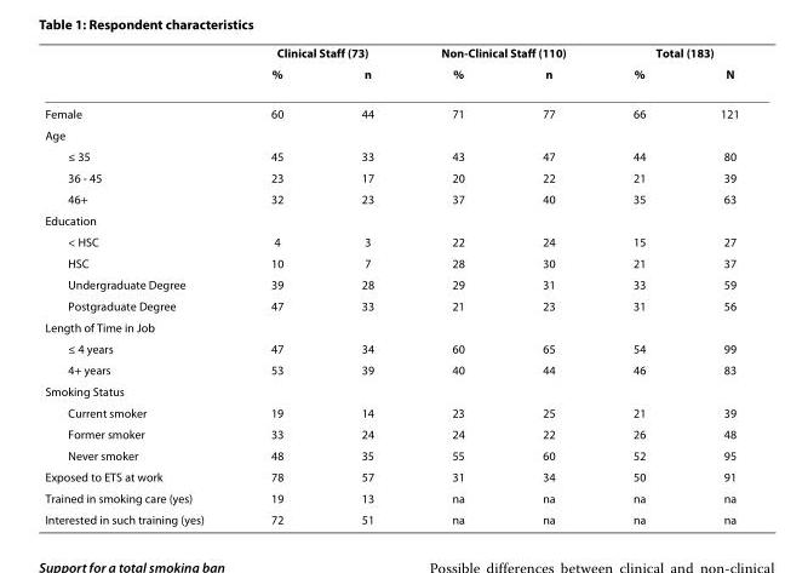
<table><thead><tr><td rowspan="2"></td><td colspan="2">Clinical Staff (73)</td><td colspan="2">Non-Clinical Staff (110)</td><td colspan="2">Total (183)</td></tr><tr><td>%</td><td>n</td><td>%</td><td>n</td><td>%</td><td>N</td></tr></thead><tbody><tr><td>Female</td><td>60</td><td>44</td><td>71</td><td>77</td><td>66</td><td>121</td></tr><tr><td colspan="7">Age</td></tr><tr><td>≤ 35</td><td>45</td><td>33</td><td>43</td><td>47</td><td>44</td><td>80</td></tr><tr><td>36 - 45</td><td>23</td><td>17</td><td>20</td><td>22</td><td>21</td><td>39</td></tr><tr><td>46+</td><td>32</td><td>23</td><td>37</td><td>40</td><td>35</td><td>63</td></tr><tr><td colspan="7">Education</td></tr><tr><td>&lt; HSC</td><td>4</td><td>3</td><td>22</td><td>24</td><td>15</td><td>27</td></tr><tr><td>HSC</td><td>10</td><td>7</td><td>28</td><td>30</td><td>21</td><td>37</td></tr><tr><td>Undergraduate Degree</td><td>39</td><td>28</td><td>29</td><td>31</td><td>33</td><td>59</td></tr><tr><td>Postgraduate Degree</td><td>47</td><td>33</td><td>21</td><td>23</td><td>31</td><td>56</td></tr><tr><td colspan="7">Length of Time in Job</td></tr><tr><td>≤ 4 years</td><td>47</td><td>34</td><td>60</td><td>65</td><td>54</td><td>99</td></tr><tr><td>4+ years</td><td>53</td><td>39</td><td>40</td><td>44</td><td>46</td><td>83</td></tr><tr><td colspan="7">Smoking Status</td></tr><tr><td>Current smoker</td><td>19</td><td>14</td><td>23</td><td>25</td><td>21</td><td>39</td></tr><tr><td>Former smoker</td><td>33</td><td>24</td><td>24</td><td>22</td><td>26</td><td>48</td></tr><tr><td>Never smoker</td><td>48</td><td>35</td><td>55</td><td>60</td><td>52</td><td>95</td></tr><tr><td>Exposed to ETS at work</td><td>78</td><td>57</td><td>31</td><td>34</td><td>50</td><td>91</td></tr><tr><td>Trained in smoking care (yes)</td><td>19</td><td>13</td><td>na</td><td>na</td><td>na</td><td>na</td></tr><tr><td>Interested in such training (yes)</td><td>72</td><td>51</td><td>na</td><td>na</td><td>na</td><td>na</td></tr></tbody></table>